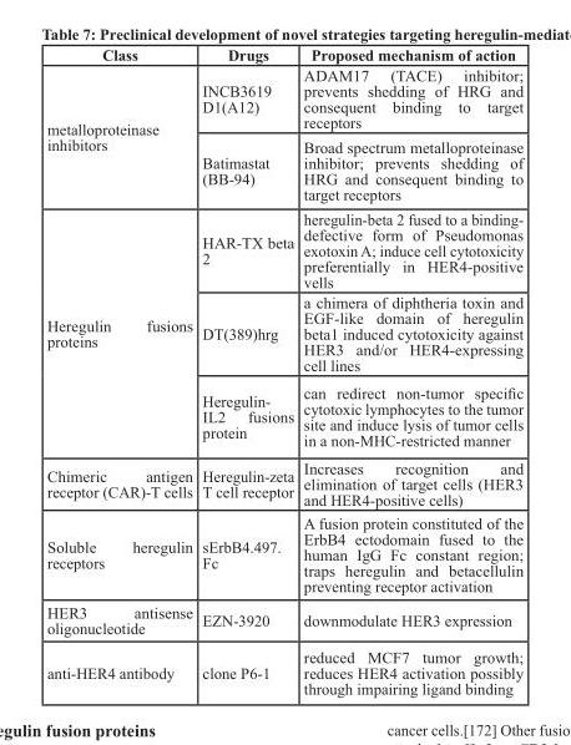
<table><thead><tr><td>Class</td><td>Drugs</td><td>Proposed mechanism of action</td></tr></thead><tbody><tr><td rowspan="2">metalloproteinase inhibitors</td><td>INCB3619 D1(A12)</td><td>ADAM17 (TACE) inhibitor; prevents shedding of HRG and consequent binding to target receptors</td></tr><tr><td>Batimastat (BB-94)</td><td>Broad spectrum metalloproteinase inhibitor; prevents shedding of HRG and consequent binding to target receptors</td></tr><tr><td rowspan="3">Heregulin fusions proteins</td><td>HAR-TX beta 2</td><td>heregulin-beta 2 fused to a binding- defective form of Pseudomonas exotoxin A; induce cell cytotoxicity preferentially in HER4-positive vells</td></tr><tr><td>DT(389)hrg</td><td>a chimera of diphtheria toxin and EGF-like domain of heregulin beta1 induced cytotoxicity against HER3 and/or HER4-expressing cell lines</td></tr><tr><td>Heregulin- IL2 fusions protein</td><td>can redirect non-tumor specific cytotoxic lymphocytes to the tumor site and induce lysis of tumor cells in a non-MHC-restricted manner</td></tr><tr><td>Chimeric antigen receptor (CAR)-T cells</td><td>Heregulin-zeta T cell receptor</td><td>Increases recognition and elimination of target cells (HER3 and HER4-positive cells)</td></tr><tr><td>Soluble heregulin receptors</td><td>sErbB4.497. Fc</td><td>A fusion protein constituted of the ErbB4 ectodomain fused to the human IgG Fc constant region; traps heregulin and betacellulin preventing receptor activation</td></tr><tr><td>HER3 antisense oligonucleotide</td><td>EZN-3920</td><td>downmodulate HER3 expression</td></tr><tr><td>anti-HER4 antibody</td><td>clone P6-1</td><td>reduced MCF7 tumor growth; reduces HER4 activation possibly through impairing ligand binding</td></tr></tbody></table>